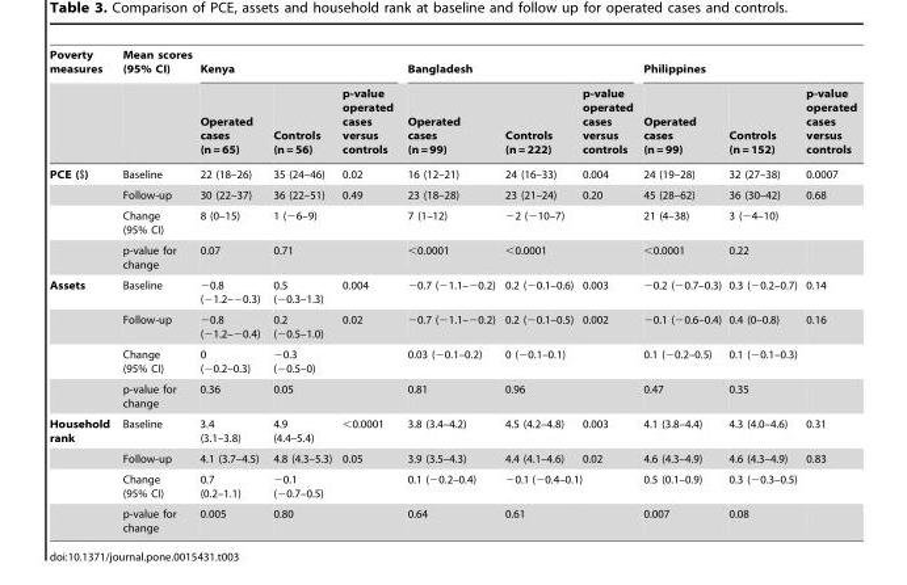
<table><thead><tr><td rowspan="2">Poverty measures</td><td rowspan="2">Mean scores (95% CI)</td><td colspan="3">Kenya</td><td colspan="3">Bangladesh</td><td colspan="3">Philippines</td></tr><tr><td>Operated cases (n = 65)</td><td>Controls (n = 56)</td><td>p-value operated cases versus controls</td><td>Operated cases (n = 99)</td><td>Controls (n = 222)</td><td>p-value operated cases versus controls</td><td>Operated cases (n = 99)</td><td>Controls (n = 152)</td><td>p-value operated cases versus controls</td></tr></thead><tbody><tr><td rowspan="4">PCE ($)</td><td>Baseline</td><td>22 (18–26)</td><td>35 (24–46)</td><td>0.02</td><td>16 (12–21)</td><td>24 (16–33)</td><td>0.004</td><td>24 (19–28)</td><td>32 (27–38)</td><td>0.0007</td></tr><tr><td>Follow-up</td><td>30 (22–37)</td><td>36 (22–51)</td><td>0.49</td><td>23 (18–28)</td><td>23 (21–24)</td><td>0.20</td><td>45 (28–62)</td><td>36 (30–42)</td><td>0.68</td></tr><tr><td>Change (95% CI)</td><td>8 (0–15)</td><td>1 (−6–9)</td><td></td><td>7 (1–12)</td><td>−2 (−10–7)</td><td></td><td>21 (4–38)</td><td>3 (−4–10)</td><td></td></tr><tr><td>p-value for change</td><td>0.07</td><td>0.71</td><td></td><td>&lt;0.0001</td><td>&lt;0.0001</td><td></td><td>&lt;0.0001</td><td>0.22</td><td></td></tr><tr><td rowspan="4">Assets</td><td>Baseline</td><td>−0.8 (−1.2–−0.3)</td><td>0.5 (−0.3–1.3)</td><td>0.004</td><td>−0.7 (−1.1–−0.2)</td><td>0.2 (−0.1–0.6)</td><td>0.003</td><td>−0.2 (−0.7–0.3)</td><td>0.3 (−0.2–0.7)</td><td>0.14</td></tr><tr><td>Follow-up</td><td>−0.8 (−1.2–−0.4)</td><td>0.2 (−0.5–1.0)</td><td>0.02</td><td>−0.7 (−1.1–−0.2)</td><td>0.2 (−0.1–0.5)</td><td>0.002</td><td>−0.1 (−0.6–0.4)</td><td>0.4 (0–0.8)</td><td>0.16</td></tr><tr><td>Change (95% CI)</td><td>0 (−0.2–0.3)</td><td>−0.3 (−0.5–0)</td><td></td><td>0.03 (−0.1–0.2)</td><td>0 (−0.1–0.1)</td><td></td><td>0.1 (−0.2–0.5)</td><td>0.1 (−0.1–0.3)</td><td></td></tr><tr><td>p-value for change</td><td>0.36</td><td>0.05</td><td></td><td>0.81</td><td>0.96</td><td></td><td>0.47</td><td>0.35</td><td></td></tr><tr><td rowspan="4">Household rank</td><td>Baseline</td><td>3.4 (3.1–3.8)</td><td>4.9 (4.4–5.4)</td><td>&lt;0.0001</td><td>3.8 (3.4–4.2)</td><td>4.5 (4.2–4.8)</td><td>0.003</td><td>4.1 (3.8–4.4)</td><td>4.3 (4.0–4.6)</td><td>0.31</td></tr><tr><td>Follow-up</td><td>4.1 (3.7–4.5)</td><td>4.8 (4.3–5.3)</td><td>0.05</td><td>3.9 (3.5–4.3)</td><td>4.4 (4.1–4.6)</td><td>0.02</td><td>4.6 (4.3–4.9)</td><td>4.6 (4.3–4.9)</td><td>0.83</td></tr><tr><td>Change (95% CI)</td><td>0.7 (0.2–1.1)</td><td>−0.1 (−0.7–0.5)</td><td></td><td>0.1 (−0.2–0.4)</td><td>−0.1 (−0.4–0.1)</td><td></td><td>0.5 (0.1–0.9)</td><td>0.3 (−0.3–0.5)</td><td></td></tr><tr><td>p-value for change</td><td>0.005</td><td>0.80</td><td></td><td>0.64</td><td>0.61</td><td></td><td>0.007</td><td>0.08</td><td></td></tr></tbody></table>